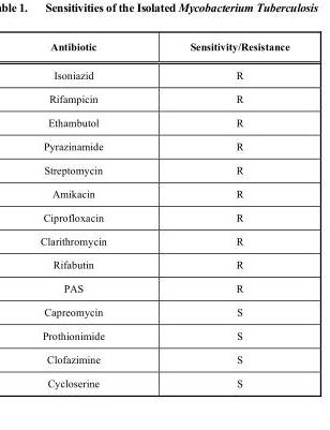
<table><thead><tr><td>Antibiotic</td><td>Sensitivity/Resistance</td></tr></thead><tbody><tr><td>Isoniazid</td><td>R</td></tr><tr><td>Rifampicin</td><td>R</td></tr><tr><td>Ethambutol</td><td>R</td></tr><tr><td>Pyrazinamide</td><td>R</td></tr><tr><td>Streptomycin</td><td>R</td></tr><tr><td>Amikacin</td><td>R</td></tr><tr><td>Ciprofloxacin</td><td>R</td></tr><tr><td>Clarithromycin</td><td>R</td></tr><tr><td>Rifabutin</td><td>R</td></tr><tr><td>PAS</td><td>R</td></tr><tr><td>Capreomycin</td><td>S</td></tr><tr><td>Prothionimide</td><td>S</td></tr><tr><td>Clofazimine</td><td>S</td></tr><tr><td>Cycloserine</td><td>S</td></tr></tbody></table>